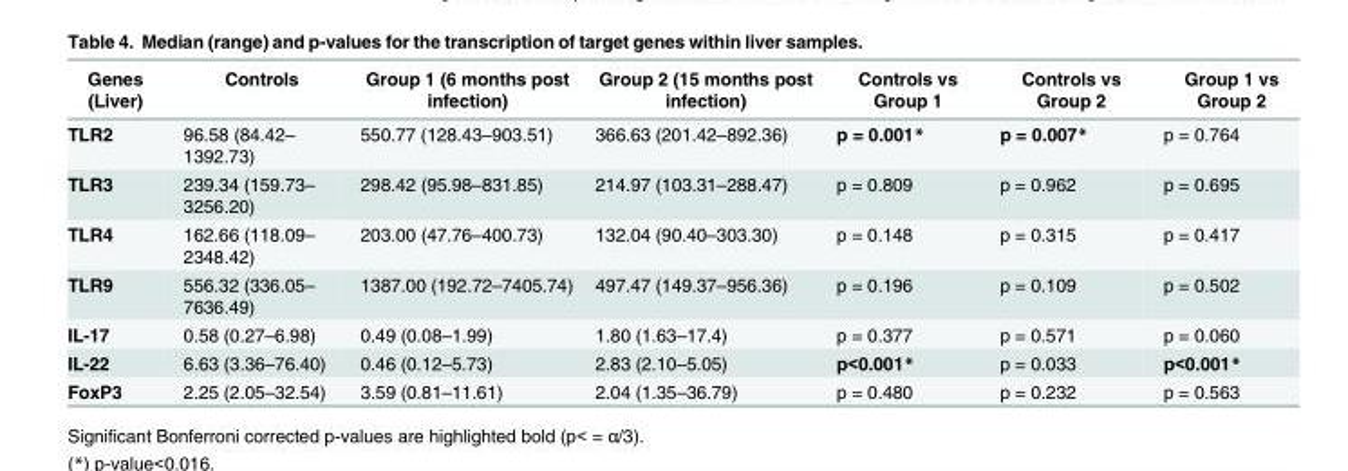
<table><thead><tr><td>Genes (Liver)</td><td>Controls</td><td>Group 1 (6 months post infection)</td><td>Group 2 (15 months post infection)</td><td>Controls vs Group 1</td><td>Controls vs Group 2</td><td>Group 1 vs Group 2</td></tr></thead><tbody><tr><td>TLR2</td><td>96.58 (84.42– 1392.73)</td><td>550.77 (128.43–903.51)</td><td>366.63 (201.42–892.36)</td><td>p = 0.001*</td><td>p = 0.007*</td><td>p = 0.764</td></tr><tr><td>TLR3</td><td>239.34 (159.73– 3256.20)</td><td>298.42 (95.98–831.85)</td><td>214.97 (103.31–288.47)</td><td>p = 0.809</td><td>p = 0.962</td><td>p = 0.695</td></tr><tr><td>TLR4</td><td>162.66 (118.09– 2348.42)</td><td>203.00 (47.76–400.73)</td><td>132.04 (90.40–303.30)</td><td>p = 0.148</td><td>p = 0.315</td><td>p = 0.417</td></tr><tr><td>TLR9</td><td>556.32 (336.05– 7636.49)</td><td>1387.00 (192.72–7405.74)</td><td>497.47 (149.37–956.36)</td><td>p = 0.196</td><td>p = 0.109</td><td>p = 0.502</td></tr><tr><td>IL-17</td><td>0.58 (0.27–6.98)</td><td>0.49 (0.08–1.99)</td><td>1.80 (1.63–17.4)</td><td>p = 0.377</td><td>p = 0.571</td><td>p = 0.060</td></tr><tr><td>IL-22</td><td>6.63 (3.36–76.40)</td><td>0.46 (0.12–5.73)</td><td>2.83 (2.10–5.05)</td><td>p&lt;0.001*</td><td>p = 0.033</td><td>p&lt;0.001*</td></tr><tr><td>FoxP3</td><td>2.25 (2.05–32.54)</td><td>3.59 (0.81–11.61)</td><td>2.04 (1.35–36.79)</td><td>p = 0.480</td><td>p = 0.232</td><td>p = 0.563</td></tr></tbody></table>